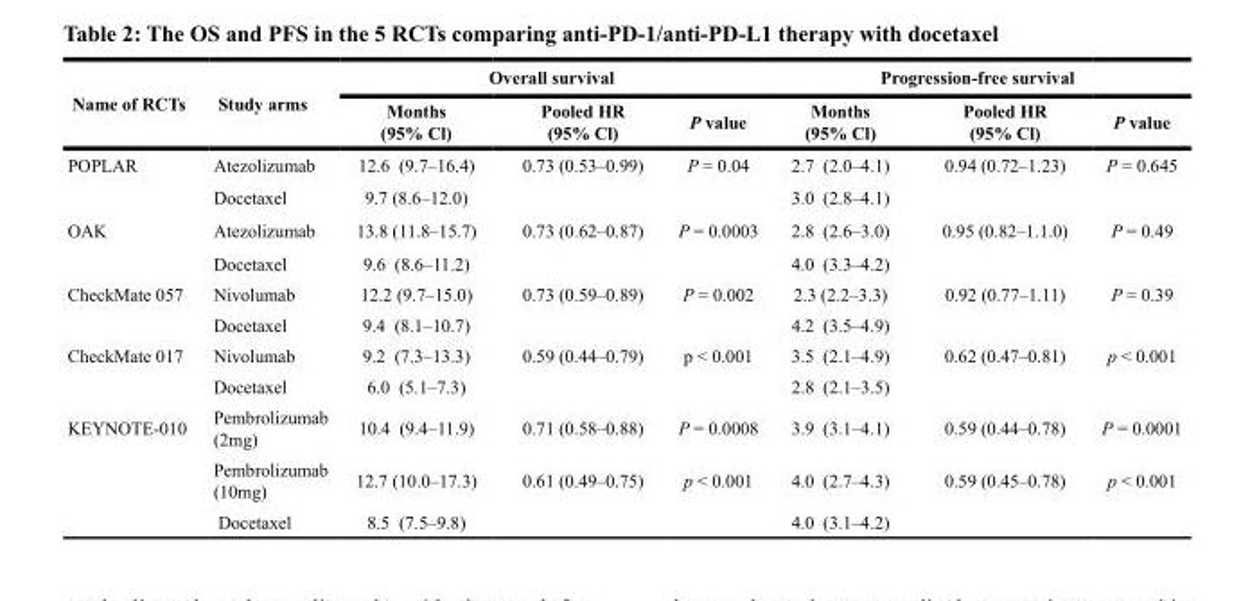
<table><thead><tr><td rowspan="2">Name of RCTs</td><td rowspan="2">Study arms</td><td colspan="3">Overall survival</td><td colspan="3">Progression-free survival</td></tr><tr><td>Months (95% Cl)</td><td>Pooled HR (95% Cl)</td><td>P value</td><td>Months (95% Cl)</td><td>Pooled HR (95% Cl)</td><td>P value</td></tr></thead><tbody><tr><td rowspan="2">POPLAR</td><td>Atezolizumab</td><td>12.6 (9.7–16.4)</td><td>0.73 (0.53–0.99)</td><td>P = 0.04</td><td>2.7 (2.0–4.1)</td><td>0.94 (0.72–1.23)</td><td>P = 0.645</td></tr><tr><td>Docetaxel</td><td>9.7 (8.6–12.0)</td><td></td><td></td><td>3.0 (2.8–4.1)</td><td></td><td></td></tr><tr><td rowspan="2">OAK</td><td>Atezolizumab</td><td>13.8 (11.8–15.7)</td><td>0.73 (0.62–0.87)</td><td>P = 0.0003</td><td>2.8 (2.6–3.0)</td><td>0.95 (0.82–1.1.0)</td><td>P = 0.49</td></tr><tr><td>Docetaxel</td><td>9.6 (8.6–11.2)</td><td></td><td></td><td>4.0 (3.3–4.2)</td><td></td><td></td></tr><tr><td rowspan="2">CheckMate 057</td><td>Nivolumab</td><td>12.2 (9.7–15.0)</td><td>0.73 (0.59–0.89)</td><td>P = 0.002</td><td>2.3 (2.2–3.3)</td><td>0.92 (0.77–1.11)</td><td>P = 0.39</td></tr><tr><td>Docetaxel</td><td>9.4 (8.1–10.7)</td><td></td><td></td><td>4.2 (3.5–4.9)</td><td></td><td></td></tr><tr><td rowspan="2">CheckMate 017</td><td>Nivolumab</td><td>9.2 (7.3–13.3)</td><td>0.59 (0.44–0.79)</td><td>p &lt; 0.001</td><td>3.5 (2.1–4.9)</td><td>0.62 (0.47–0.81)</td><td>p &lt; 0.001</td></tr><tr><td>Docetaxel</td><td>6.0 (5.1–7.3)</td><td></td><td></td><td>2.8 (2.1–3.5)</td><td></td><td></td></tr><tr><td rowspan="3">KEYNOTE-010</td><td>Pembrolizumab (2mg)</td><td>10.4 (9.4–11.9)</td><td>0.71 (0.58–0.88)</td><td>P = 0.0008</td><td>3.9 (3.1–4.1)</td><td>0.59 (0.44–0.78)</td><td>P = 0.0001</td></tr><tr><td>Pembrolizumab (10mg)</td><td>12.7 (10.0–17.3)</td><td>0.61 (0.49–0.75)</td><td>p &lt; 0.001</td><td>4.0 (2.7–4.3)</td><td>0.59 (0.45–0.78)</td><td>p &lt; 0.001</td></tr><tr><td>Docetaxel</td><td>8.5 (7.5–9.8)</td><td></td><td></td><td>4.0 (3.1–4.2)</td><td></td><td></td></tr></tbody></table>